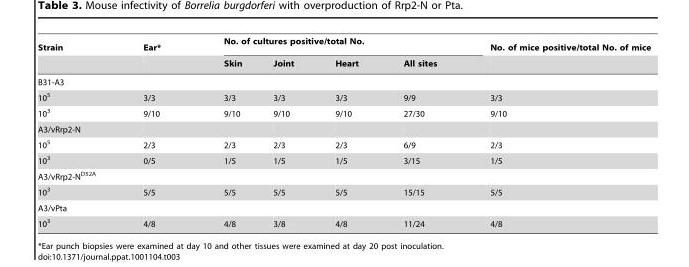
<table><thead><tr><td rowspan="2">Strain</td><td rowspan="2">Ear*</td><td colspan="4">No. of cultures positive/total No.</td><td rowspan="2">No. of mice positive/total No. of mice</td></tr><tr><td>Skin</td><td>Joint</td><td>Heart</td><td>All sites</td></tr></thead><tbody><tr><td colspan="7">B31-A3</td></tr><tr><td>10<sup>5</sup></td><td>3/3</td><td>3/3</td><td>3/3</td><td>3/3</td><td>9/9</td><td>3/3</td></tr><tr><td>10<sup>3</sup></td><td>9/10</td><td>9/10</td><td>9/10</td><td>9/10</td><td>27/30</td><td>9/10</td></tr><tr><td colspan="7">A3/vRrp2-N</td></tr><tr><td>10<sup>5</sup></td><td>2/3</td><td>2/3</td><td>2/3</td><td>2/3</td><td>6/9</td><td>2/3</td></tr><tr><td>10<sup>3</sup></td><td>0/5</td><td>1/5</td><td>1/5</td><td>1/5</td><td>3/15</td><td>1/5</td></tr><tr><td colspan="7">A3/vRrp2-N<sup>D52A</sup></td></tr><tr><td>10<sup>3</sup></td><td>5/5</td><td>5/5</td><td>5/5</td><td>5/5</td><td>15/15</td><td>5/5</td></tr><tr><td colspan="7">A3/vPta</td></tr><tr><td>10<sup>3</sup></td><td>4/8</td><td>4/8</td><td>3/8</td><td>4/8</td><td>11/24</td><td>4/8</td></tr></tbody></table>